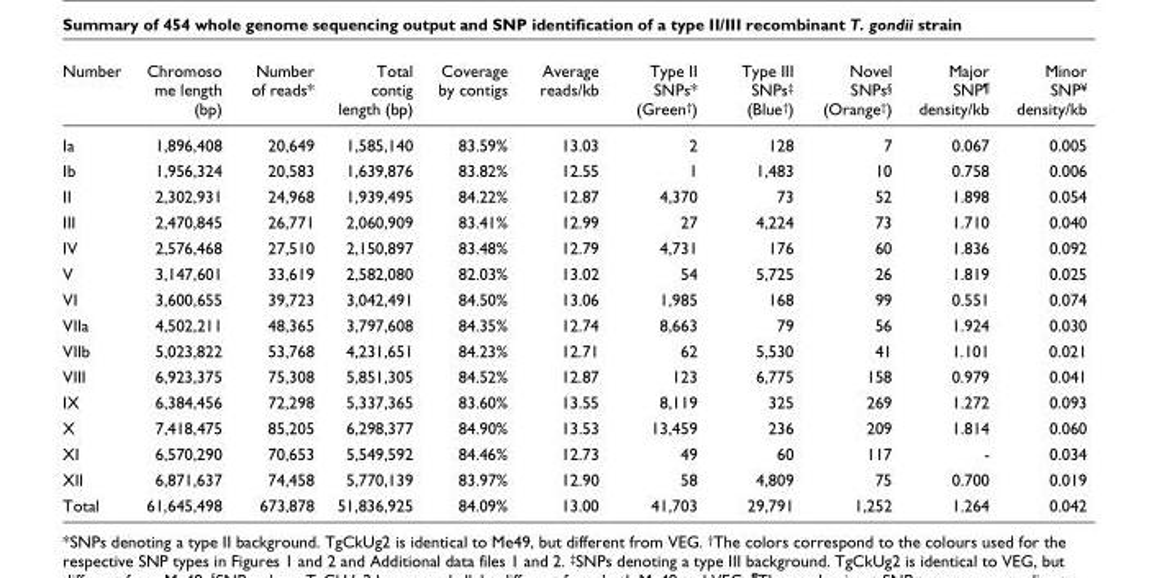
<table><thead><tr><td>Number</td><td>Chromoso me length (bp)</td><td>Number of reads*</td><td>Total contig length (bp)</td><td>Coverage by contigs</td><td>Average reads/kb</td><td>Type II SNPs* (Green<sup>†</sup>)</td><td>Type III SNPs<sup>‡</sup> (Blue<sup>†</sup>)</td><td>Novel SNPs<sup>§</sup> (Orange<sup>†</sup>)</td><td>Major SNP<sup>¶</sup> density/kb</td><td>Minor SNP<sup>¥</sup> density/kb</td></tr></thead><tbody><tr><td>Ia</td><td>1,896,408</td><td>20,649</td><td>1,585,140</td><td>83.59%</td><td>13.03</td><td>2</td><td>128</td><td>7</td><td>0.067</td><td>0.005</td></tr><tr><td>Ib</td><td>1,956,324</td><td>20,583</td><td>1,639,876</td><td>83.82%</td><td>12.55</td><td>1</td><td>1,483</td><td>10</td><td>0.758</td><td>0.006</td></tr><tr><td>II</td><td>2,302,931</td><td>24,968</td><td>1,939,495</td><td>84.22%</td><td>12.87</td><td>4,370</td><td>73</td><td>52</td><td>1.898</td><td>0.054</td></tr><tr><td>III</td><td>2,470,845</td><td>26,771</td><td>2,060,909</td><td>83.41%</td><td>12.99</td><td>27</td><td>4,224</td><td>73</td><td>1.710</td><td>0.040</td></tr><tr><td>IV</td><td>2,576,468</td><td>27,510</td><td>2,150,897</td><td>83.48%</td><td>12.79</td><td>4,731</td><td>176</td><td>60</td><td>1.836</td><td>0.092</td></tr><tr><td>V</td><td>3,147,601</td><td>33,619</td><td>2,582,080</td><td>82.03%</td><td>13.02</td><td>54</td><td>5,725</td><td>26</td><td>1.819</td><td>0.025</td></tr><tr><td>VI</td><td>3,600,655</td><td>39,723</td><td>3,042,491</td><td>84.50%</td><td>13.06</td><td>1,985</td><td>168</td><td>99</td><td>0.551</td><td>0.074</td></tr><tr><td>VIIa</td><td>4,502,211</td><td>48,365</td><td>3,797,608</td><td>84.35%</td><td>12.74</td><td>8,663</td><td>79</td><td>56</td><td>1.924</td><td>0.030</td></tr><tr><td>VIIb</td><td>5,023,822</td><td>53,768</td><td>4,231,651</td><td>84.23%</td><td>12.71</td><td>62</td><td>5,530</td><td>41</td><td>1.101</td><td>0.021</td></tr><tr><td>VIII</td><td>6,923,375</td><td>75,308</td><td>5,851,305</td><td>84.52%</td><td>12.87</td><td>123</td><td>6,775</td><td>158</td><td>0.979</td><td>0.041</td></tr><tr><td>IX</td><td>6,384,456</td><td>72,298</td><td>5,337,365</td><td>83.60%</td><td>13.55</td><td>8,119</td><td>325</td><td>269</td><td>1.272</td><td>0.093</td></tr><tr><td>X</td><td>7,418,475</td><td>85,205</td><td>6,298,377</td><td>84.90%</td><td>13.53</td><td>13,459</td><td>236</td><td>209</td><td>1.814</td><td>0.060</td></tr><tr><td>XI</td><td>6,570,290</td><td>70,653</td><td>5,549,592</td><td>84.46%</td><td>12.73</td><td>49</td><td>60</td><td>117</td><td>-</td><td>0.034</td></tr><tr><td>XII</td><td>6,871,637</td><td>74,458</td><td>5,770,139</td><td>83.97%</td><td>12.90</td><td>58</td><td>4,809</td><td>75</td><td>0.700</td><td>0.019</td></tr><tr><td>Total</td><td>61,645,498</td><td>673,878</td><td>51,836,925</td><td>84.09%</td><td>13.00</td><td>41,703</td><td>29,791</td><td>1,252</td><td>1.264</td><td>0.042</td></tr></tbody></table>